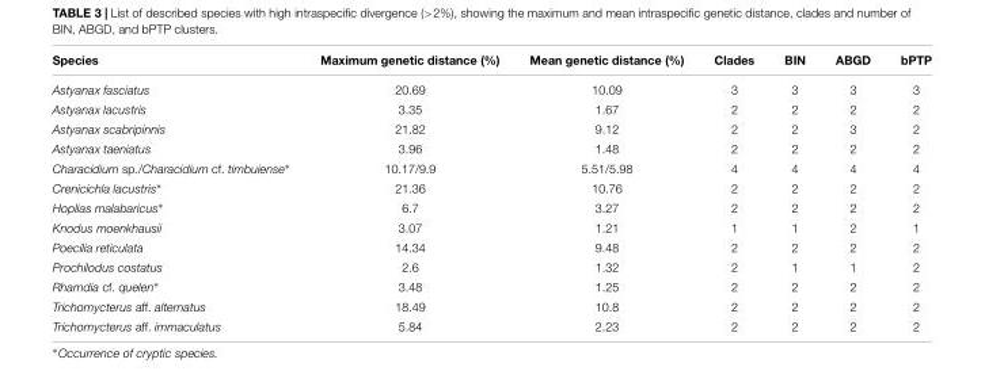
<table><thead><tr><td>Species</td><td>Maximum genetic distance (%)</td><td>Mean genetic distance (%)</td><td>Clades</td><td>BIN</td><td>ABGD</td><td>bPTP</td></tr></thead><tbody><tr><td>Astyanax fasciatus</td><td>20.69</td><td>10.09</td><td>3</td><td>3</td><td>3</td><td>3</td></tr><tr><td>Astyanax lacustris</td><td>3.35</td><td>1.67</td><td>2</td><td>2</td><td>2</td><td>2</td></tr><tr><td>Astyanax scabripinnis</td><td>21.82</td><td>9.12</td><td>2</td><td>2</td><td>3</td><td>2</td></tr><tr><td>Astyanax taeniatus</td><td>3.96</td><td>1.48</td><td>2</td><td>2</td><td>2</td><td>2</td></tr><tr><td>Characidium sp./Characidium cf. timbuiense∗</td><td>10.17/9.9</td><td>5.51/5.98</td><td>4</td><td>4</td><td>4</td><td>4</td></tr><tr><td>Crenicichla lacustris∗</td><td>21.36</td><td>10.76</td><td>2</td><td>2</td><td>2</td><td>2</td></tr><tr><td>Hoplias malabaricus∗</td><td>6.7</td><td>3.27</td><td>2</td><td>2</td><td>2</td><td>2</td></tr><tr><td>Knodus moenkhausii</td><td>3.07</td><td>1.21</td><td>1</td><td>1</td><td>2</td><td>1</td></tr><tr><td>Poecilia reticulata</td><td>14.34</td><td>9.48</td><td>2</td><td>2</td><td>2</td><td>2</td></tr><tr><td>Prochilodus costatus</td><td>2.6</td><td>1.32</td><td>2</td><td>1</td><td>1</td><td>2</td></tr><tr><td>Rhamdia cf. quelen∗</td><td>3.48</td><td>1.25</td><td>2</td><td>2</td><td>2</td><td>2</td></tr><tr><td>Trichomycterus aff. alternatus</td><td>18.49</td><td>10.8</td><td>2</td><td>2</td><td>2</td><td>2</td></tr><tr><td>Trichomycterus aff. immaculatus</td><td>5.84</td><td>2.23</td><td>2</td><td>2</td><td>2</td><td>2</td></tr></tbody></table>